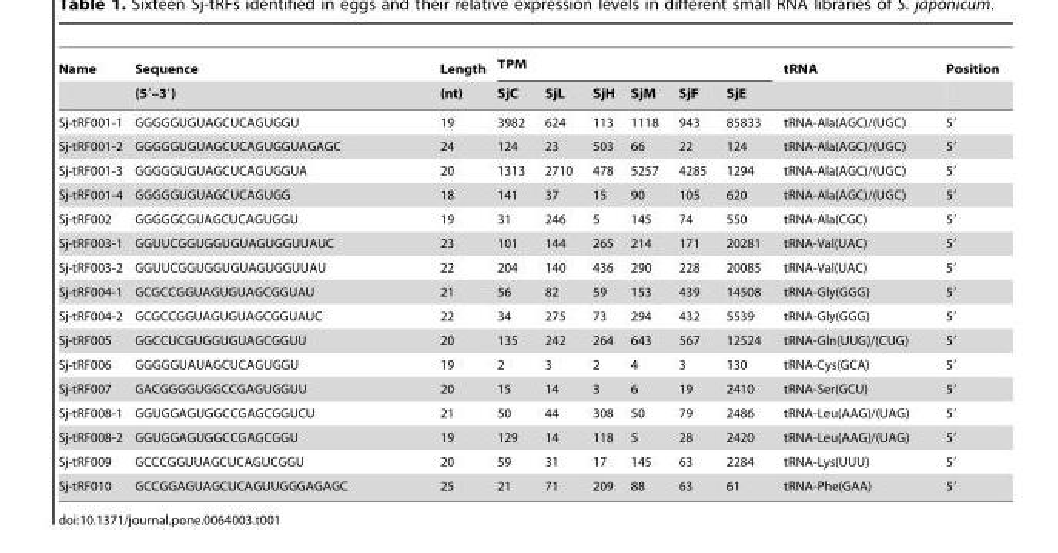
<table><thead><tr><td rowspan="2">Name</td><td rowspan="2">Sequence (5′–3′)</td><td rowspan="2">Length (nt)</td><td colspan="6">TPM</td><td rowspan="2">tRNA</td><td rowspan="2">Position</td></tr><tr><td>SjC</td><td>SjL</td><td>SjH</td><td>SjM</td><td>SjF</td><td>SjE</td></tr></thead><tbody><tr><td>Sj-tRF001-1</td><td>GGGGGUGUAGCUCAGUGGU</td><td>19</td><td>3982</td><td>624</td><td>113</td><td>1118</td><td>943</td><td>85833</td><td>tRNA-Ala(AGC)/(UGC)</td><td>5′</td></tr><tr><td>Sj-tRF001-2</td><td>GGGGGUGUAGCUCAGUGGUAGAGC</td><td>24</td><td>124</td><td>23</td><td>503</td><td>66</td><td>22</td><td>124</td><td>tRNA-Ala(AGC)/(UGC)</td><td>5′</td></tr><tr><td>Sj-tRF001-3</td><td>GGGGGUGUAGCUCAGUGGUA</td><td>20</td><td>1313</td><td>2710</td><td>478</td><td>5257</td><td>4285</td><td>1294</td><td>tRNA-Ala(AGC)/(UGC)</td><td>5′</td></tr><tr><td>Sj-tRF001-4</td><td>GGGGGUGUAGCUCAGUGG</td><td>18</td><td>141</td><td>37</td><td>15</td><td>90</td><td>105</td><td>620</td><td>tRNA-Ala(AGC)/(UGC)</td><td>5′</td></tr><tr><td>Sj-tRF002</td><td>GGGGGCGUAGCUCAGUGGU</td><td>19</td><td>31</td><td>246</td><td>5</td><td>145</td><td>74</td><td>550</td><td>tRNA-Ala(CGC)</td><td>5′</td></tr><tr><td>Sj-tRF003-1</td><td>GGUUCGGUGGUGUAGUGGUUAUC</td><td>23</td><td>101</td><td>144</td><td>265</td><td>214</td><td>171</td><td>20281</td><td>tRNA-Val(UAC)</td><td>5′</td></tr><tr><td>Sj-tRF003-2</td><td>GGUUCGGUGGUGUAGUGGUUAU</td><td>22</td><td>204</td><td>140</td><td>436</td><td>290</td><td>228</td><td>20085</td><td>tRNA-Val(UAC)</td><td>5′</td></tr><tr><td>Sj-tRF004-1</td><td>GCGCCGGUAGUGUAGCGGUAU</td><td>21</td><td>56</td><td>82</td><td>59</td><td>153</td><td>439</td><td>14508</td><td>tRNA-Gly(GGG)</td><td>5′</td></tr><tr><td>Sj-tRF004-2</td><td>GCGCCGGUAGUGUAGCGGUAUC</td><td>22</td><td>34</td><td>275</td><td>73</td><td>294</td><td>432</td><td>5539</td><td>tRNA-Gly(GGG)</td><td>5′</td></tr><tr><td>Sj-tRF005</td><td>GGCCUCGUGGUGUAGCGGUU</td><td>20</td><td>135</td><td>242</td><td>264</td><td>643</td><td>567</td><td>12524</td><td>tRNA-Gln(UUG)/(CUG)</td><td>5′</td></tr><tr><td>Sj-tRF006</td><td>GGGGGUAUAGCUCAGUGGU</td><td>19</td><td>2</td><td>3</td><td>2</td><td>4</td><td>3</td><td>130</td><td>tRNA-Cys(GCA)</td><td>5′</td></tr><tr><td>Sj-tRF007</td><td>GACGGGGUGGCCGAGUGGUU</td><td>20</td><td>15</td><td>14</td><td>3</td><td>6</td><td>19</td><td>2410</td><td>tRNA-Ser(GCU)</td><td>5′</td></tr><tr><td>Sj-tRF008-1</td><td>GGUGGAGUGGCCGAGCGGUCU</td><td>21</td><td>50</td><td>44</td><td>308</td><td>50</td><td>79</td><td>2486</td><td>tRNA-Leu(AAG)/(UAG)</td><td>5′</td></tr><tr><td>Sj-tRF008-2</td><td>GGUGGAGUGGCCGAGCGGU</td><td>19</td><td>129</td><td>14</td><td>118</td><td>5</td><td>28</td><td>2420</td><td>tRNA-Leu(AAG)/(UAG)</td><td>5′</td></tr><tr><td>Sj-tRF009</td><td>GCCCGGUUAGCUCAGUCGGU</td><td>20</td><td>59</td><td>31</td><td>17</td><td>145</td><td>63</td><td>2284</td><td>tRNA-Lys(UUU)</td><td>5′</td></tr><tr><td>Sj-tRF010</td><td>GCCGGAGUAGCUCAGUUGGGAGAGC</td><td>25</td><td>21</td><td>71</td><td>209</td><td>88</td><td>63</td><td>61</td><td>tRNA-Phe(GAA)</td><td>5′</td></tr></tbody></table>